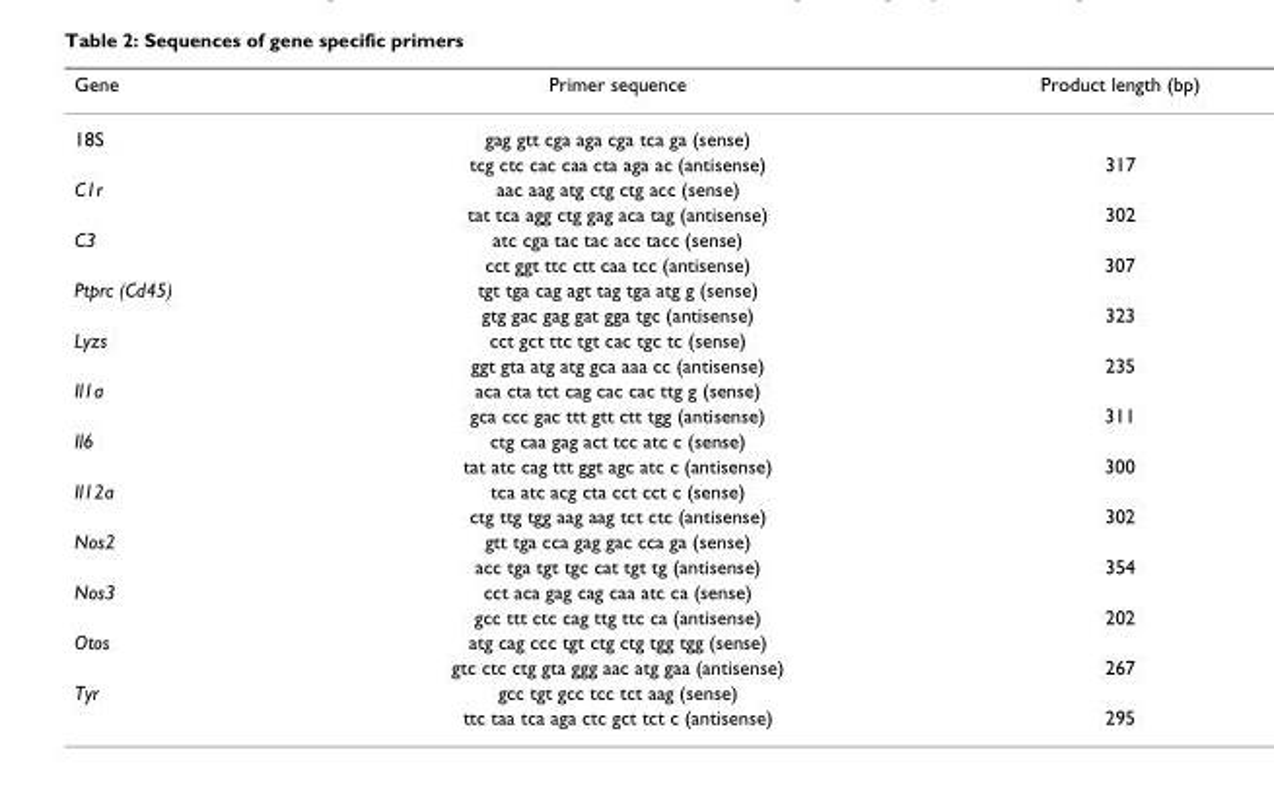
<table><thead><tr><td>Gene</td><td>Primer sequence</td><td>Product length (bp)</td></tr></thead><tbody><tr><td rowspan="2">18S</td><td>gag gtt cga aga cga tca ga (sense)</td><td></td></tr><tr><td>tcg ctc cac caa cta aga ac (antisense)</td><td>317</td></tr><tr><td rowspan="2">C1r</td><td>aac aag atg ctg ctg acc (sense)</td><td></td></tr><tr><td>tat tca agg ctg gag aca tag (antisense)</td><td>302</td></tr><tr><td rowspan="2">C3</td><td>atc cga tac tac acc tacc (sense)</td><td></td></tr><tr><td>cct ggt ttc ctt caa tcc (antisense)</td><td>307</td></tr><tr><td rowspan="2">Ptprc (Cd45)</td><td>tgt tga cag agt tag tga atg g (sense)</td><td></td></tr><tr><td>gtg gac gag gat gga tgc (antisense)</td><td>323</td></tr><tr><td rowspan="2">Lyzs</td><td>cct gct ttc tgt cac tgc tc (sense)</td><td></td></tr><tr><td>ggt gta atg atg gca aaa cc (antisense)</td><td>235</td></tr><tr><td rowspan="2">Il1a</td><td>aca cta tct cag cac cac ttg g (sense)</td><td></td></tr><tr><td>gca ccc gac ttt gtt ctt tgg (antisense)</td><td>311</td></tr><tr><td rowspan="2">Il6</td><td>ctg caa gag act tcc atc c (sense)</td><td></td></tr><tr><td>tat atc cag ttt ggt agc atc c (antisense)</td><td>300</td></tr><tr><td rowspan="2">Il12a</td><td>tca atc acg cta cct cct c (sense)</td><td></td></tr><tr><td>ctg ttg tgg aag aag tct ctc (antisense)</td><td>302</td></tr><tr><td rowspan="2">Nos2</td><td>gtt tga cca gag gac cca ga (sense)</td><td></td></tr><tr><td>acc tga tgt tgc cat tgt tg (antisense)</td><td>354</td></tr><tr><td rowspan="2">Nos3</td><td>cct aca gag cag caa atc ca (sense)</td><td></td></tr><tr><td>gcc ttt ctc cag ttg ttc ca (antisense)</td><td>202</td></tr><tr><td rowspan="2">Otos</td><td>atg cag ccc tgt ctg ctg tgg tgg (sense)</td><td></td></tr><tr><td>gtc ctc ctg gta ggg aac atg gaa (antisense)</td><td>267</td></tr><tr><td rowspan="2">Tyr</td><td>gcc tgt gcc tcc tct aag (sense)</td><td></td></tr><tr><td>ttc taa tca aga ctc gct tct c (antisense)</td><td>295</td></tr></tbody></table>